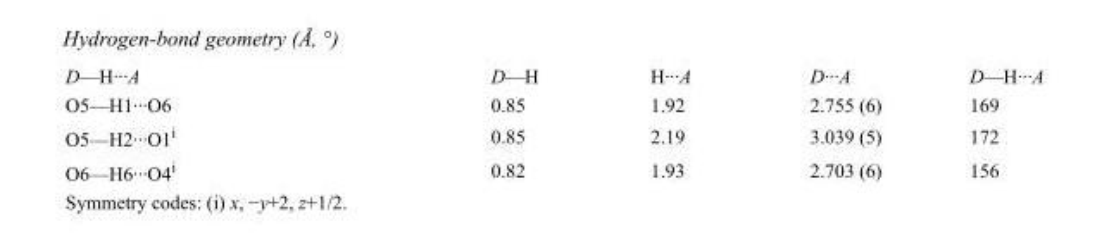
<table><tbody><tr><td>D—H···A</td><td>D—H</td><td>H···A</td><td>D···A</td><td>D—H···A</td></tr><tr><td>O5—H1···O6</td><td>0.85</td><td>1.92</td><td>2.755 (6)</td><td>169</td></tr><tr><td>O5—H2···O1<sup>i</sup></td><td>0.85</td><td>2.19</td><td>3.039 (5)</td><td>172</td></tr><tr><td>O6—H6···O4<sup>i</sup></td><td>0.82</td><td>1.93</td><td>2.703 (6)</td><td>156</td></tr></tbody></table>